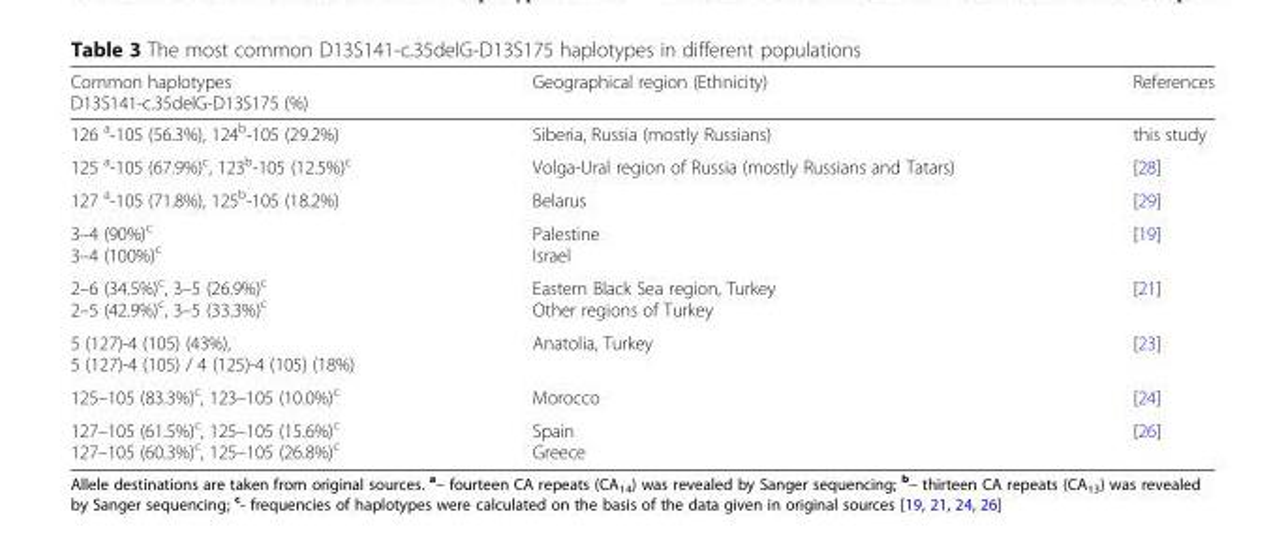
<table><thead><tr><td>Common haplotypes D13S141-c.35delG-D13S175 (%)</td><td>Geographical region (Ethnicity)</td><td>References</td></tr></thead><tbody><tr><td>126 <sup>a</sup>-105 (56.3%), 124<sup>b</sup>-105 (29.2%)</td><td>Siberia, Russia (mostly Russians)</td><td>this study</td></tr><tr><td>125 <sup>a</sup>-105 (67.9%)<sup>c</sup>, 123<sup>b</sup>-105 (12.5%)<sup>c</sup></td><td>Volga-Ural region of Russia (mostly Russians and Tatars)</td><td>[28]</td></tr><tr><td>127 <sup>a</sup>-105 (71.8%), 125<sup>b</sup>-105 (18.2%)</td><td>Belarus</td><td>[29]</td></tr><tr><td>3–4 (90%)<sup>c</sup> 3–4 (100%)<sup>c</sup></td><td>Palestine Israel</td><td>[19]</td></tr><tr><td>2–6 (34.5%)<sup>c</sup>, 3–5 (26.9%)<sup>c</sup> 2–5 (42.9%)<sup>c</sup>, 3–5 (33.3%)<sup>c</sup></td><td>Eastern Black Sea region, Turkey Other regions of Turkey</td><td>[21]</td></tr><tr><td>5 (127)-4 (105) (43%), 5 (127)-4 (105) / 4 (125)-4 (105) (18%)</td><td>Anatolia, Turkey</td><td>[23]</td></tr><tr><td>125–105 (83.3%)<sup>c</sup>, 123–105 (10.0%)<sup>c</sup></td><td>Morocco</td><td>[24]</td></tr><tr><td>127–105 (61.5%)<sup>c</sup>, 125–105 (15.6%)<sup>c</sup> 127–105 (60.3%)<sup>c</sup>, 125–105 (26.8%)<sup>c</sup></td><td>Spain Greece</td><td>[26]</td></tr></tbody></table>